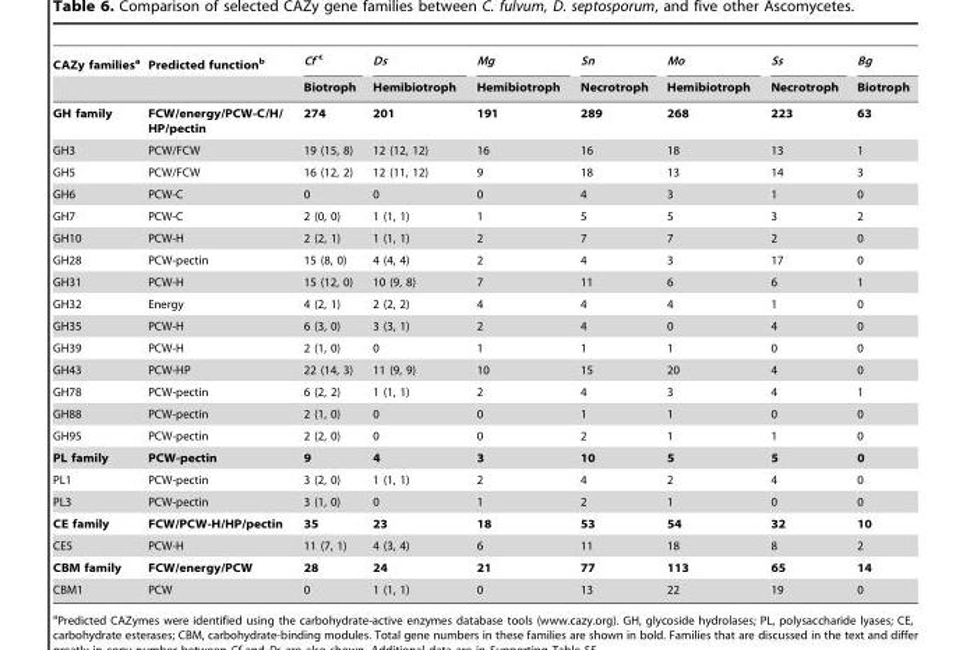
<table><thead><tr><td rowspan="2">CAZy families<sup>a</sup></td><td rowspan="2">Predicted function<sup>b</sup></td><td rowspan="2">Cf c Biotroph</td><td rowspan="2">Ds Hemibiotroph</td><td rowspan="2">Mg Hemibiotroph</td><td rowspan="2">Sn Necrotroph</td><td rowspan="2">Mo Hemibiotroph</td><td rowspan="2">Ss Necrotroph</td><td rowspan="2">Bg Biotroph</td></tr><tr></tr></thead><tbody><tr><td>GH family</td><td>FCW/energy/PCW-C/H/ HP/pectin</td><td>274</td><td>201</td><td>191</td><td>289</td><td>268</td><td>223</td><td>63</td></tr><tr><td>GH3</td><td>PCW/FCW</td><td>19 (15, 8)</td><td>12 (12, 12)</td><td>16</td><td>16</td><td>18</td><td>13</td><td>1</td></tr><tr><td>GH5</td><td>PCW/FCW</td><td>16 (12, 2)</td><td>12 (11, 12)</td><td>9</td><td>18</td><td>13</td><td>14</td><td>3</td></tr><tr><td>GH6</td><td>PCW-C</td><td>0</td><td>0</td><td>0</td><td>4</td><td>3</td><td>1</td><td>0</td></tr><tr><td>GH7</td><td>PCW-C</td><td>2 (0, 0)</td><td>1 (1, 1)</td><td>1</td><td>5</td><td>5</td><td>3</td><td>2</td></tr><tr><td>GH10</td><td>PCW-H</td><td>2 (2, 1)</td><td>1 (1, 1)</td><td>2</td><td>7</td><td>7</td><td>2</td><td>0</td></tr><tr><td>GH28</td><td>PCW-pectin</td><td>15 (8, 0)</td><td>4 (4, 4)</td><td>2</td><td>4</td><td>3</td><td>17</td><td>0</td></tr><tr><td>GH31</td><td>PCW-H</td><td>15 (12, 0)</td><td>10 (9, 8)</td><td>7</td><td>11</td><td>6</td><td>6</td><td>1</td></tr><tr><td>GH32</td><td>Energy</td><td>4 (2, 1)</td><td>2 (2, 2)</td><td>4</td><td>4</td><td>4</td><td>1</td><td>0</td></tr><tr><td>GH35</td><td>PCW-H</td><td>6 (3, 0)</td><td>3 (3, 1)</td><td>2</td><td>4</td><td>0</td><td>4</td><td>0</td></tr><tr><td>GH39</td><td>PCW-H</td><td>2 (1, 0)</td><td>0</td><td>1</td><td>1</td><td>1</td><td>0</td><td>0</td></tr><tr><td>GH43</td><td>PCW-HP</td><td>22 (14, 3)</td><td>11 (9, 9)</td><td>10</td><td>15</td><td>20</td><td>4</td><td>0</td></tr><tr><td>GH78</td><td>PCW-pectin</td><td>6 (2, 2)</td><td>1 (1, 1)</td><td>2</td><td>4</td><td>3</td><td>4</td><td>1</td></tr><tr><td>GH88</td><td>PCW-pectin</td><td>2 (1, 0)</td><td>0</td><td>0</td><td>1</td><td>1</td><td>0</td><td>0</td></tr><tr><td>GH95</td><td>PCW-pectin</td><td>2 (2, 0)</td><td>0</td><td>0</td><td>2</td><td>1</td><td>1</td><td>0</td></tr><tr><td>PL family</td><td>PCW-pectin</td><td>9</td><td>4</td><td>3</td><td>10</td><td>5</td><td>5</td><td>0</td></tr><tr><td>PL1</td><td>PCW-pectin</td><td>3 (2, 0)</td><td>1 (1, 1)</td><td>2</td><td>4</td><td>2</td><td>4</td><td>0</td></tr><tr><td>PL3</td><td>PCW-pectin</td><td>3 (1, 0)</td><td>0</td><td>1</td><td>2</td><td>1</td><td>0</td><td>0</td></tr><tr><td>CE family</td><td>FCW/PCW-H/HP/pectin</td><td>35</td><td>23</td><td>18</td><td>53</td><td>54</td><td>32</td><td>10</td></tr><tr><td>CE5</td><td>PCW-H</td><td>11 (7, 1)</td><td>4 (3, 4)</td><td>6</td><td>11</td><td>18</td><td>8</td><td>2</td></tr><tr><td>CBM family</td><td>FCW/energy/PCW</td><td>28</td><td>24</td><td>21</td><td>77</td><td>113</td><td>65</td><td>14</td></tr><tr><td>CBM1</td><td>PCW</td><td>0</td><td>1 (1, 1)</td><td>0</td><td>13</td><td>22</td><td>19</td><td>0</td></tr></tbody></table>